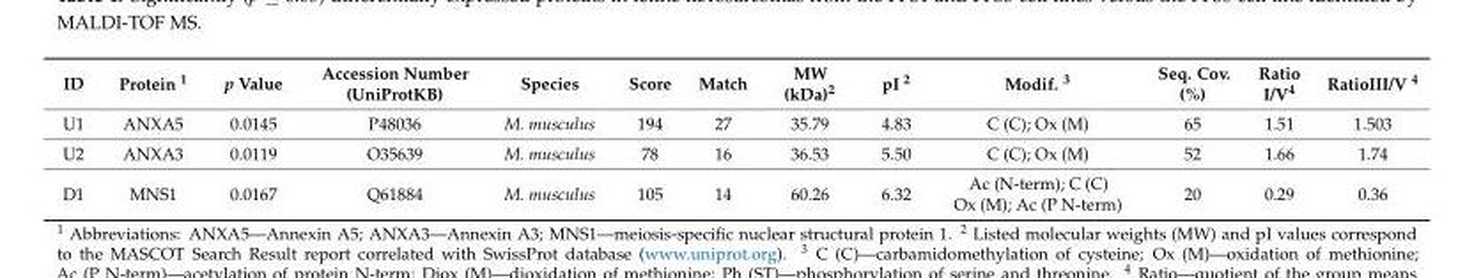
<table><thead><tr><td>ID</td><td>Protein <sup>1</sup></td><td>p Value</td><td>Accession Number (UniProtKB)</td><td>Species</td><td>Score</td><td>Match</td><td>MW (kDa)<sup>2</sup></td><td>pI <sup>2</sup></td><td>Modif. <sup>3</sup></td><td>Seq. Cov. (%)</td><td>Ratio I/V<sup>4</sup></td><td>RatioIII/V <sup>4</sup></td></tr></thead><tbody><tr><td>U1</td><td>ANXA5</td><td>0.0145</td><td>P48036</td><td>M. musculus</td><td>194</td><td>27</td><td>35.79</td><td>4.83</td><td>C (C); Ox (M)</td><td>65</td><td>1.51</td><td>1.503</td></tr><tr><td>U2</td><td>ANXA3</td><td>0.0119</td><td>O35639</td><td>M. musculus</td><td>78</td><td>16</td><td>36.53</td><td>5.50</td><td>C (C); Ox (M)</td><td>52</td><td>1.66</td><td>1.74</td></tr><tr><td>D1</td><td>MNS1</td><td>0.0167</td><td>Q61884</td><td>M. musculus</td><td>105</td><td>14</td><td>60.26</td><td>6.32</td><td>Ac (N-term); C (C) Ox (M); Ac (P N-term)</td><td>20</td><td>0.29</td><td>0.36</td></tr></tbody></table>